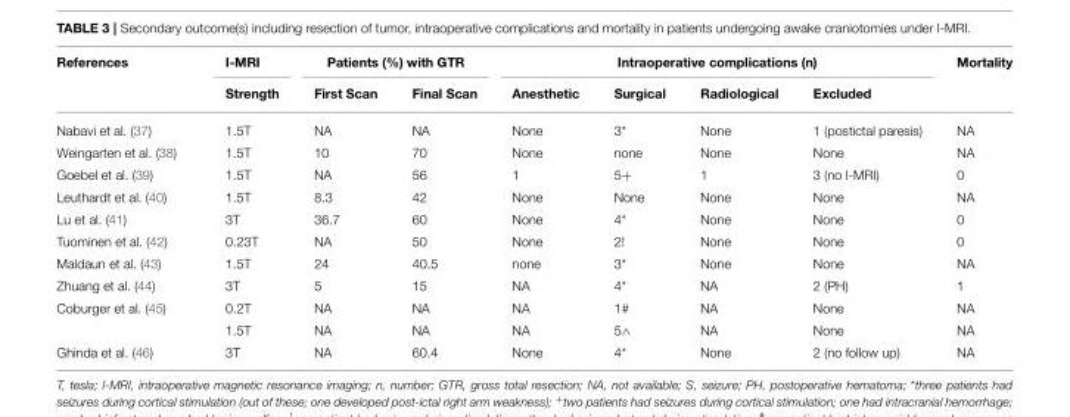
<table><thead><tr><td rowspan="2">References</td><td rowspan="2">I-MRI Strength</td><td colspan="2">Patients (%) with GTR</td><td colspan="4">Intraoperative complications (n)</td><td rowspan="2">Mortality</td></tr><tr><td>First Scan</td><td>Final Scan</td><td>Anesthetic</td><td>Surgical</td><td>Radiological</td><td>Excluded</td></tr></thead><tbody><tr><td>Nabavi et al. (37)</td><td>1.5T</td><td>NA</td><td>NA</td><td>None</td><td>3*</td><td>None</td><td>1 (postictal paresis)</td><td>NA</td></tr><tr><td>Weingarten et al. (38)</td><td>1.5T</td><td>10</td><td>70</td><td>None</td><td>none</td><td>None</td><td>None</td><td>NA</td></tr><tr><td>Goebel et al. (39)</td><td>1.5T</td><td>NA</td><td>56</td><td>1</td><td>5+</td><td>1</td><td>3 (no I-MRI)</td><td>0</td></tr><tr><td>Leuthardt et al. (40)</td><td>1.5T</td><td>8.3</td><td>42</td><td>None</td><td>None</td><td>None</td><td>None</td><td>NA</td></tr><tr><td>Lu et al. (41)</td><td>3T</td><td>36.7</td><td>60</td><td>None</td><td>4*</td><td>None</td><td>None</td><td>0</td></tr><tr><td>Tuominen et al. (42)</td><td>0.23T</td><td>NA</td><td>50</td><td>None</td><td>2!</td><td>None</td><td>None</td><td>0</td></tr><tr><td>Maldaun et al. (43)</td><td>1.5T</td><td>24</td><td>40.5</td><td>none</td><td>3*</td><td>None</td><td>None</td><td>NA</td></tr><tr><td>Zhuang et al. (44)</td><td>3T</td><td>5</td><td>15</td><td>NA</td><td>4*</td><td>NA</td><td>2 (PH)</td><td>1</td></tr><tr><td rowspan="2">Coburger et al. (45)</td><td>0.2T</td><td>NA</td><td>NA</td><td>NA</td><td>1#</td><td>NA</td><td>None</td><td>NA</td></tr><tr><td>1.5T</td><td>NA</td><td>NA</td><td>NA</td><td>5∧</td><td>NA</td><td>None</td><td>NA</td></tr><tr><td>Ghinda et al. (46)</td><td>3T</td><td>NA</td><td>60.4</td><td>None</td><td>4*</td><td>None</td><td>2 (no follow up)</td><td>NA</td></tr></tbody></table>